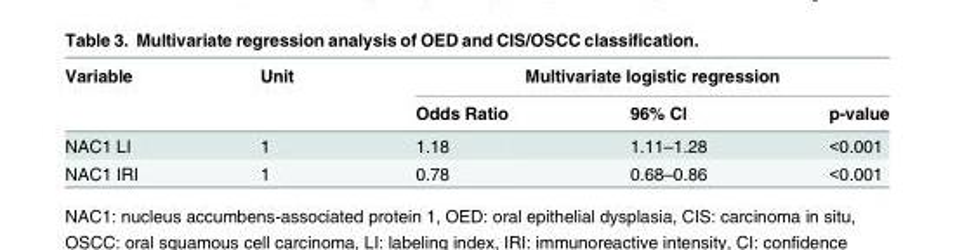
<table><thead><tr><td rowspan="2">Variable</td><td rowspan="2">Unit</td><td colspan="3">Multivariate logistic regression</td></tr><tr><td>Odds Ratio</td><td>96% Cl</td><td>p-value</td></tr></thead><tbody><tr><td>NAC1 LI</td><td>1</td><td>1.18</td><td>1.11–1.28</td><td>&lt;0.001</td></tr><tr><td>NAC1 IRI</td><td>1</td><td>0.78</td><td>0.68–0.86</td><td>&lt;0.001</td></tr></tbody></table>